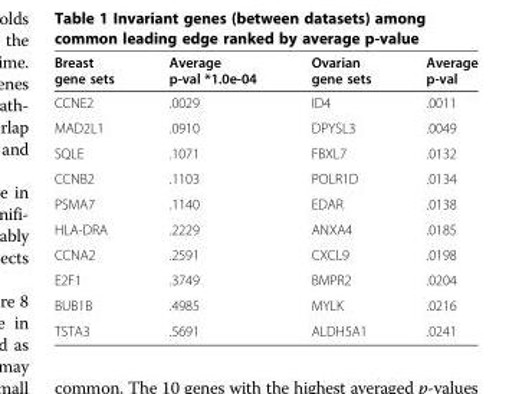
<table><thead><tr><td>Breast gene sets</td><td>Average p-val *1.0e-04</td><td>Ovarian gene sets</td><td>Average p-val</td></tr></thead><tbody><tr><td>CCNE2</td><td>.0029</td><td>ID4</td><td>.0011</td></tr><tr><td>MAD2L1</td><td>.0910</td><td>DPYSL3</td><td>.0049</td></tr><tr><td>SQLE</td><td>.1071</td><td>FBXL7</td><td>.0132</td></tr><tr><td>CCNB2</td><td>.1103</td><td>POLR1D</td><td>.0134</td></tr><tr><td>PSMA7</td><td>.1140</td><td>EDAR</td><td>.0138</td></tr><tr><td>HLA-DRA</td><td>.2229</td><td>ANXA4</td><td>.0185</td></tr><tr><td>CCNA2</td><td>.2591</td><td>CXCL9</td><td>.0198</td></tr><tr><td>E2F1</td><td>.3749</td><td>BMPR2</td><td>.0204</td></tr><tr><td>BUB1B</td><td>.4985</td><td>MYLK</td><td>.0216</td></tr><tr><td>TSTA3</td><td>.5691</td><td>ALDH5A1</td><td>.0241</td></tr></tbody></table>